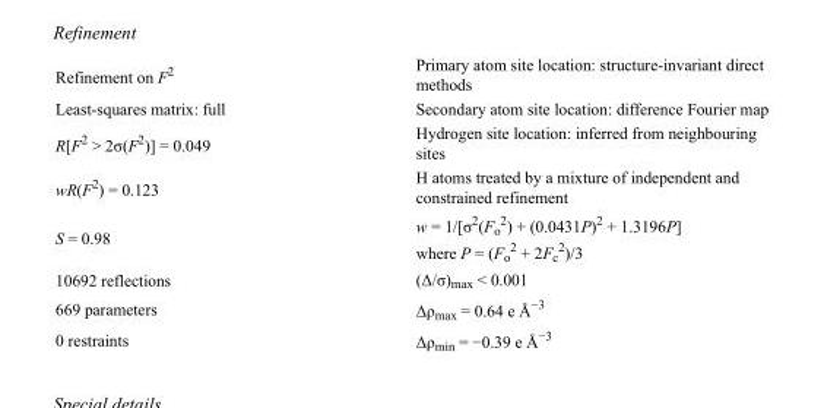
<table><tbody><tr><td>Refinement on F<sup>2</sup></td><td>Primary atom site location: structure-invariant direct methods</td></tr><tr><td>Least-squares matrix: full</td><td>Secondary atom site location: difference Fourier map</td></tr><tr><td>R[F<sup>2</sup> &gt; 2σ(F<sup>2</sup>)] = 0.049</td><td>Hydrogen site location: inferred from neighbouring sites</td></tr><tr><td>wR(F<sup>2</sup>) = 0.123</td><td>H atoms treated by a mixture of independent and constrained refinement</td></tr><tr><td>S = 0.98</td><td>w = 1/[σ<sup>2</sup>(F<sub>o</sub> <sup>2</sup>) + (0.0431P)<sup>2</sup> + 1.3196P] where P = (F<sub>o</sub> <sup>2</sup> + 2F<sub>c</sub> <sup>2</sup>)/3</td></tr><tr><td>10692 reflections</td><td>(Δ/σ)<sub>max</sub> &lt; 0.001</td></tr><tr><td>669 parameters</td><td>Δρ<sub>max</sub> = 0.64 e Å<sup>−3</sup></td></tr><tr><td>0 restraints</td><td>Δρ<sub>min</sub> = −0.39 e Å<sup>−3</sup></td></tr></tbody></table>